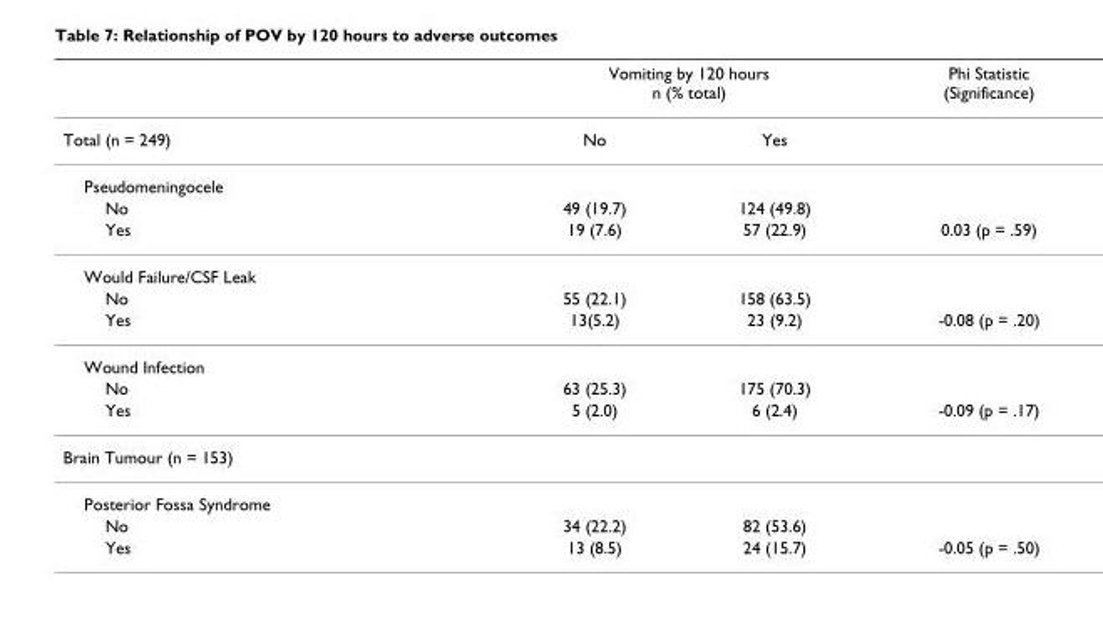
<table><thead><tr><td rowspan="2">Total (n = 249)</td><td colspan="2">Vomiting by 120 hours n (% total)</td><td rowspan="2">Phi Statistic (Significance)</td></tr><tr><td>No</td><td>Yes</td></tr></thead><tbody><tr><td colspan="4">Pseudomeningocele</td></tr><tr><td>No</td><td>49 (19.7)</td><td>124 (49.8)</td><td></td></tr><tr><td>Yes</td><td>19 (7.6)</td><td>57 (22.9)</td><td>0.03 (p = .59)</td></tr><tr><td colspan="4">Would Failure/CSF Leak</td></tr><tr><td>No</td><td>55 (22.1)</td><td>158 (63.5)</td><td></td></tr><tr><td>Yes</td><td>13(5.2)</td><td>23 (9.2)</td><td>-0.08 (p = .20)</td></tr><tr><td colspan="4">Wound Infection</td></tr><tr><td>No</td><td>63 (25.3)</td><td>175 (70.3)</td><td></td></tr><tr><td>Yes</td><td>5 (2.0)</td><td>6 (2.4)</td><td>-0.09 (p = .17)</td></tr><tr><td colspan="4">Brain Tumour (n = 153)</td></tr><tr><td colspan="4">Posterior Fossa Syndrome</td></tr><tr><td>No</td><td>34 (22.2)</td><td>82 (53.6)</td><td></td></tr><tr><td>Yes</td><td>13 (8.5)</td><td>24 (15.7)</td><td>-0.05 (p = .50)</td></tr></tbody></table>